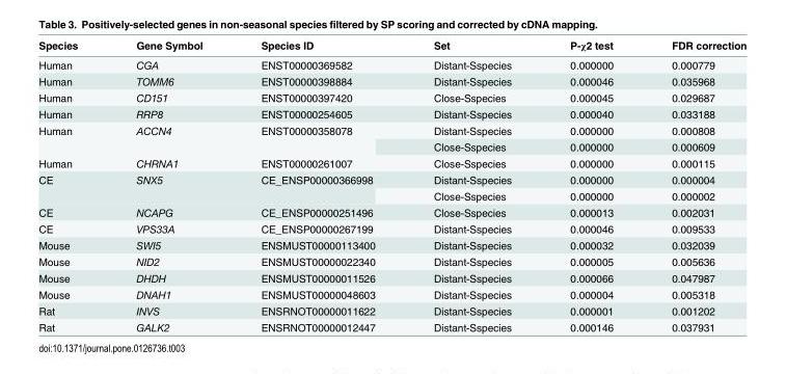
<table><thead><tr><td>Species</td><td>Gene Symbol</td><td>Species ID</td><td>Set</td><td>P-χ2 test</td><td>FDR correction</td></tr></thead><tbody><tr><td>Human</td><td>CGA</td><td>ENST00000369582</td><td>Distant-Sspecies</td><td>0.000000</td><td>0.000779</td></tr><tr><td>Human</td><td>TOMM6</td><td>ENST00000398884</td><td>Distant-Sspecies</td><td>0.000046</td><td>0.035968</td></tr><tr><td>Human</td><td>CD151</td><td>ENST00000397420</td><td>Close-Sspecies</td><td>0.000045</td><td>0.029687</td></tr><tr><td>Human</td><td>RRP8</td><td>ENST00000254605</td><td>Distant-Sspecies</td><td>0.000040</td><td>0.033188</td></tr><tr><td rowspan="2">Human</td><td rowspan="2">ACCN4</td><td rowspan="2">ENST00000358078</td><td>Distant-Sspecies</td><td>0.000000</td><td>0.000808</td></tr><tr><td>Close-Sspecies</td><td>0.000000</td><td>0.000609</td></tr><tr><td>Human</td><td>CHRNA1</td><td>ENST00000261007</td><td>Close-Sspecies</td><td>0.000000</td><td>0.000115</td></tr><tr><td rowspan="2">CE</td><td rowspan="2">SNX5</td><td rowspan="2">CE_ENSP00000366998</td><td>Distant-Sspecies</td><td>0.000000</td><td>0.000004</td></tr><tr><td>Close-Sspecies</td><td>0.000000</td><td>0.000002</td></tr><tr><td>CE</td><td>NCAPG</td><td>CE_ENSP00000251496</td><td>Close-Sspecies</td><td>0.000013</td><td>0.002031</td></tr><tr><td>CE</td><td>VPS33A</td><td>CE_ENSP00000267199</td><td>Distant-Sspecies</td><td>0.000046</td><td>0.009533</td></tr><tr><td>Mouse</td><td>SWI5</td><td>ENSMUST00000113400</td><td>Distant-Sspecies</td><td>0.000032</td><td>0.032039</td></tr><tr><td>Mouse</td><td>NID2</td><td>ENSMUST00000022340</td><td>Distant-Sspecies</td><td>0.000005</td><td>0.005636</td></tr><tr><td>Mouse</td><td>DHDH</td><td>ENSMUST00000011526</td><td>Distant-Sspecies</td><td>0.000066</td><td>0.047987</td></tr><tr><td>Mouse</td><td>DNAH1</td><td>ENSMUST00000048603</td><td>Distant-Sspecies</td><td>0.000004</td><td>0.005318</td></tr><tr><td>Rat</td><td>INVS</td><td>ENSRNOT00000011622</td><td>Distant-Sspecies</td><td>0.000001</td><td>0.001202</td></tr><tr><td>Rat</td><td>GALK2</td><td>ENSRNOT00000012447</td><td>Distant-Sspecies</td><td>0.000146</td><td>0.037931</td></tr></tbody></table>